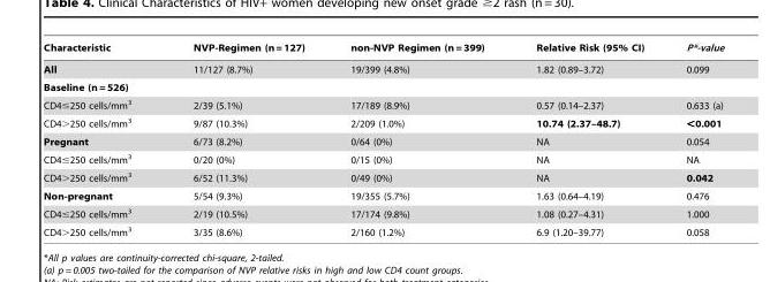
<table><thead><tr><td>Characteristic</td><td>NVP-Regimen (n = 127)</td><td>non-NVP Regimen (n = 399)</td><td>Relative Risk (95% CI)</td><td>P*-value</td></tr></thead><tbody><tr><td>All</td><td>11/127 (8.7%)</td><td>19/399 (4.8%)</td><td>1.82 (0.89–3.72)</td><td>0.099</td></tr><tr><td colspan="5">Baseline (n = 526)</td></tr><tr><td>CD4≤250 cells/mm<sup>3</sup></td><td>2/39 (5.1%)</td><td>17/189 (8.9%)</td><td>0.57 (0.14–2.37)</td><td>0.633 (a)</td></tr><tr><td>CD4&gt;250 cells/mm<sup>3</sup></td><td>9/87 (10.3%)</td><td>2/209 (1.0%)</td><td>10.74 (2.37–48.7)</td><td>&lt;0.001</td></tr><tr><td>Pregnant</td><td>6/73 (8.2%)</td><td>0/64 (0%)</td><td>NA</td><td>0.054</td></tr><tr><td>CD4≤250 cells/mm<sup>3</sup></td><td>0/20 (0%)</td><td>0/15 (0%)</td><td>NA</td><td>NA</td></tr><tr><td>CD4&gt;250 cells/mm<sup>3</sup></td><td>6/52 (11.3%)</td><td>0/49 (0%)</td><td>NA</td><td>0.042</td></tr><tr><td>Non-pregnant</td><td>5/54 (9.3%)</td><td>19/355 (5.7%)</td><td>1.63 (0.64–4.19)</td><td>0.476</td></tr><tr><td>CD4≤250 cells/mm<sup>3</sup></td><td>2/19 (10.5%)</td><td>17/174 (9.8%)</td><td>1.08 (0.27–4.31)</td><td>1.000</td></tr><tr><td>CD4&gt;250 cells/mm<sup>3</sup></td><td>3/35 (8.6%)</td><td>2/160 (1.2%)</td><td>6.9 (1.20–39.77)</td><td>0.058</td></tr></tbody></table>